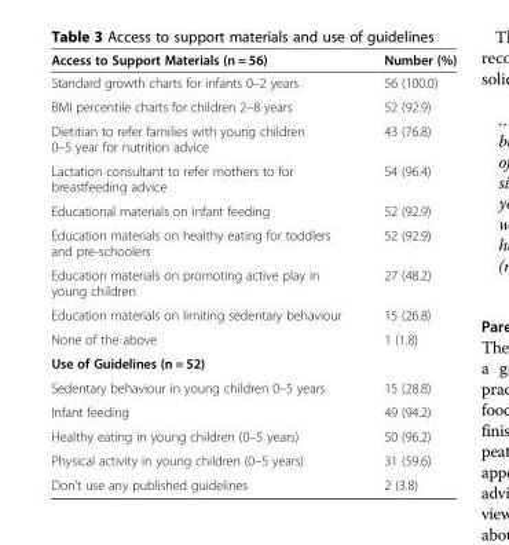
<table><thead><tr><td>Access to Support Materials (n = 56)</td><td>Number (%)</td></tr></thead><tbody><tr><td>Standard growth charts for infants 0–2 years</td><td>56 (100.0)</td></tr><tr><td>BMI percentile charts for children 2–8 years</td><td>52 (92.9)</td></tr><tr><td>Dietitian to refer families with young children 0–5 year for nutrition advice</td><td>43 (76.8)</td></tr><tr><td>Lactation consultant to refer mothers to for breastfeeding advice</td><td>54 (96.4)</td></tr><tr><td>Educational materials on infant feeding</td><td>52 (92.9)</td></tr><tr><td>Education materials on healthy eating for toddlers and pre-schoolers</td><td>52 (92.9)</td></tr><tr><td>Education materials on promoting active play in young children</td><td>27 (48.2)</td></tr><tr><td>Education materials on limiting sedentary behaviour</td><td>15 (26.8)</td></tr><tr><td>None of the above</td><td>1 (1.8)</td></tr><tr><td colspan="2">Use of Guidelines (n = 52)</td></tr><tr><td>Sedentary behaviour in young children 0–5 years</td><td>15 (28.8)</td></tr><tr><td>Infant feeding</td><td>49 (94.2)</td></tr><tr><td>Healthy eating in young children (0–5 years)</td><td>50 (96.2)</td></tr><tr><td>Physical activity in young children (0–5 years)</td><td>31 (59.6)</td></tr><tr><td>Don’t use any published guidelines</td><td>2 (3.8)</td></tr></tbody></table>